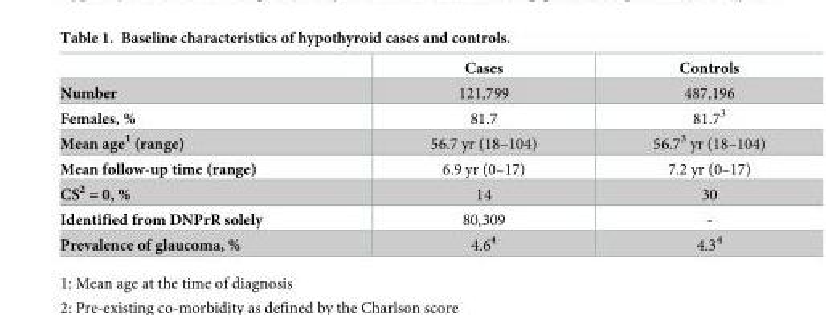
<table><thead><tr><td></td><td>Cases</td><td>Controls</td></tr></thead><tbody><tr><td>Number</td><td>121,799</td><td>487,196</td></tr><tr><td>Females, %</td><td>81.7</td><td>81.7<sup>3</sup></td></tr><tr><td>Mean age<sup>1</sup> (range)</td><td>56.7 yr (18–104)</td><td>56.7<sup>3</sup> yr (18–104)</td></tr><tr><td>Mean follow-up time (range)</td><td>6.9 yr (0–17)</td><td>7.2 yr (0–17)</td></tr><tr><td>CS<sup>2</sup> = 0, %</td><td>14</td><td>30</td></tr><tr><td>Identified from DNPrR solely</td><td>80,309</td><td>-</td></tr><tr><td>Prevalence of glaucoma, %</td><td>4.6<sup>4</sup></td><td>4.3<sup>4</sup></td></tr></tbody></table>